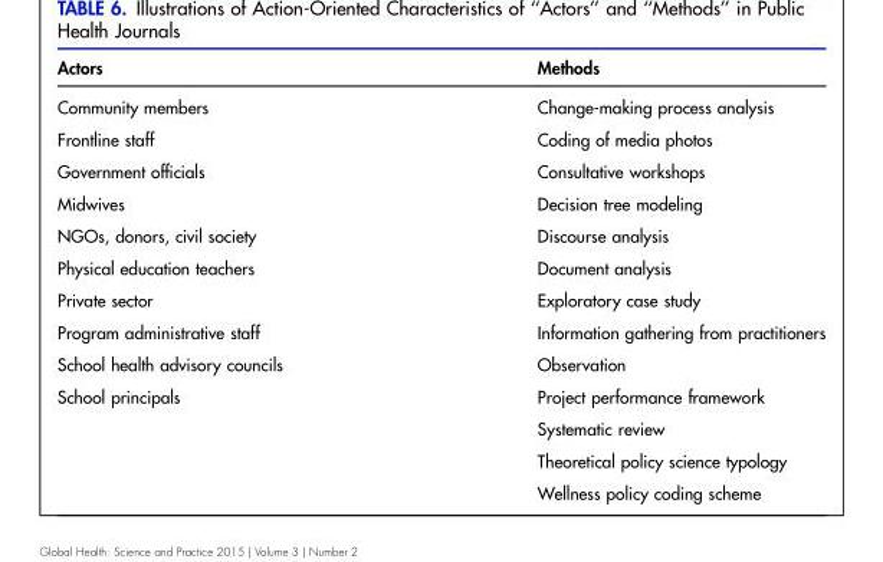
<table><thead><tr><td>Actors</td><td>Methods</td></tr></thead><tbody><tr><td>Community members</td><td>Change-making process analysis</td></tr><tr><td>Frontline staff</td><td>Coding of media photos</td></tr><tr><td>Government officials</td><td>Consultative workshops</td></tr><tr><td>Midwives</td><td>Decision tree modeling</td></tr><tr><td>NGOs, donors, civil society</td><td>Discourse analysis</td></tr><tr><td>Physical education teachers</td><td>Document analysis</td></tr><tr><td>Private sector</td><td>Exploratory case study</td></tr><tr><td>Program administrative staff</td><td>Information gathering from practitioners</td></tr><tr><td>School health advisory councils</td><td>Observation</td></tr><tr><td rowspan="4">School principals</td><td>Project performance framework</td></tr><tr><td>Systematic review</td></tr><tr><td>Theoretical policy science typology</td></tr><tr><td>Wellness policy coding scheme</td></tr></tbody></table>